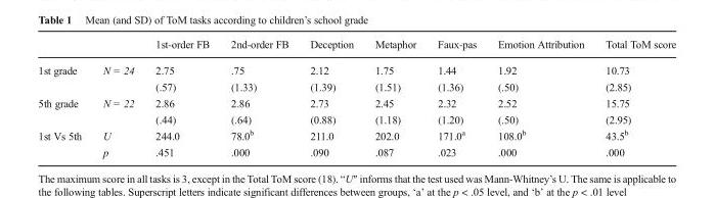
<table><thead><tr><td></td><td></td><td>1st-order FB</td><td>2nd-order FB</td><td>Deception</td><td>Metaphor</td><td>Faux-pas</td><td>Emotion Attribution</td><td>Total ToM score</td></tr></thead><tbody><tr><td rowspan="2">1st grade</td><td rowspan="2">N = 24</td><td>2.75</td><td>.75</td><td>2.12</td><td>1.75</td><td>1.44</td><td>1.92</td><td>10.73</td></tr><tr><td>(.57)</td><td>(1.33)</td><td>(1.39)</td><td>(1.51)</td><td>(1.36)</td><td>(.50)</td><td>(2.85)</td></tr><tr><td rowspan="2">5th grade</td><td rowspan="2">N = 22</td><td>2.86</td><td>2.86</td><td>2.73</td><td>2.45</td><td>2.32</td><td>2.52</td><td>15.75</td></tr><tr><td>(.44)</td><td>(.64)</td><td>(0.88)</td><td>(1.18)</td><td>(1.20)</td><td>(.50)</td><td>(2.95)</td></tr><tr><td rowspan="2">1st Vs 5th</td><td>U</td><td>244.0</td><td>78.0<sup>b</sup></td><td>211.0</td><td>202.0</td><td>171.0<sup>a</sup></td><td>108.0<sup>b</sup></td><td>43.5<sup>b</sup></td></tr><tr><td>p</td><td>.451</td><td>.000</td><td>.090</td><td>.087</td><td>.023</td><td>.000</td><td>.000</td></tr></tbody></table>